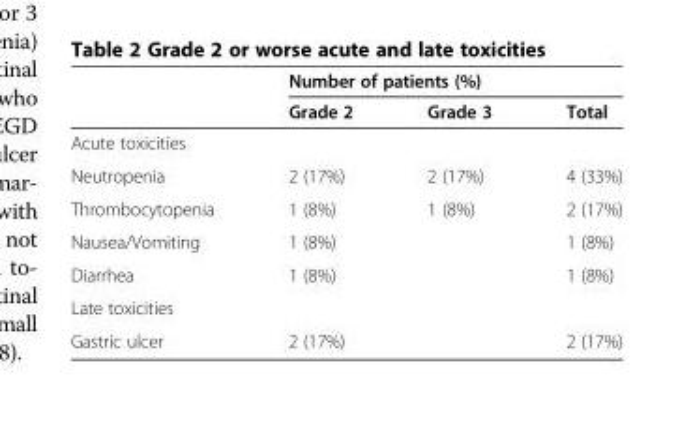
<table><thead><tr><td rowspan="2"></td><td colspan="3">Number of patients (%)</td></tr><tr><td>Grade 2</td><td>Grade 3</td><td>Total</td></tr></thead><tbody><tr><td colspan="4">Acute toxicities</td></tr><tr><td>Neutropenia</td><td>2 (17%)</td><td>2 (17%)</td><td>4 (33%)</td></tr><tr><td>Thrombocytopenia</td><td>1 (8%)</td><td>1 (8%)</td><td>2 (17%)</td></tr><tr><td>Nausea/Vomiting</td><td>1 (8%)</td><td></td><td>1 (8%)</td></tr><tr><td>Diarrhea</td><td>1 (8%)</td><td></td><td>1 (8%)</td></tr><tr><td colspan="4">Late toxicities</td></tr><tr><td>Gastric ulcer</td><td>2 (17%)</td><td></td><td>2 (17%)</td></tr></tbody></table>